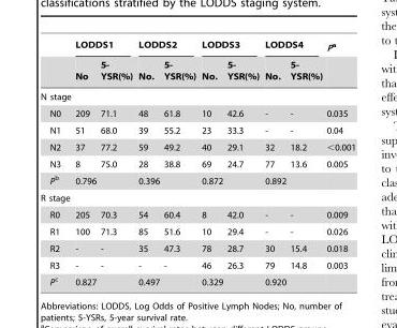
<table><thead><tr><td rowspan="2"></td><td colspan="2">LODDS1</td><td colspan="2">LODDS2</td><td colspan="2">LODDS3</td><td colspan="2">LODDS4</td><td rowspan="2">Pa</td></tr><tr><td>No</td><td>5- YSR(%)</td><td>No.</td><td>5- YSR(%)</td><td>No.</td><td>5- YSR(%)</td><td>No.</td><td>5- YSR(%)</td></tr></thead><tbody><tr><td colspan="10">N stage</td></tr><tr><td>N0</td><td>209</td><td>71.1</td><td>48</td><td>61.8</td><td>10</td><td>42.6</td><td>-</td><td>-</td><td>0.035</td></tr><tr><td>N1</td><td>51</td><td>68.0</td><td>39</td><td>55.2</td><td>23</td><td>33.3</td><td>-</td><td>-</td><td>0.04</td></tr><tr><td>N2</td><td>37</td><td>77.2</td><td>59</td><td>49.2</td><td>40</td><td>29.1</td><td>32</td><td>18.2</td><td>&lt;0.001</td></tr><tr><td>N3</td><td>8</td><td>75.0</td><td>28</td><td>38.8</td><td>69</td><td>24.7</td><td>77</td><td>13.6</td><td>0.005</td></tr><tr><td>Pb</td><td colspan="2">0.796</td><td colspan="2">0.396</td><td colspan="2">0.872</td><td colspan="2">0.892</td><td></td></tr><tr><td colspan="10">R stage</td></tr><tr><td>R0</td><td>205</td><td>70.3</td><td>54</td><td>60.4</td><td>8</td><td>42.0</td><td>-</td><td>-</td><td>0.009</td></tr><tr><td>R1</td><td>100</td><td>71.3</td><td>85</td><td>51.6</td><td>10</td><td>29.4</td><td>-</td><td>-</td><td>0.026</td></tr><tr><td>R2</td><td>-</td><td>-</td><td>35</td><td>47.3</td><td>78</td><td>28.7</td><td>30</td><td>15.4</td><td>0.018</td></tr><tr><td>R3</td><td>-</td><td>-</td><td>-</td><td>-</td><td>46</td><td>26.3</td><td>79</td><td>14.8</td><td>0.003</td></tr><tr><td>Pc</td><td colspan="2">0.827</td><td colspan="2">0.497</td><td colspan="2">0.329</td><td colspan="2">0.920</td><td></td></tr></tbody></table>